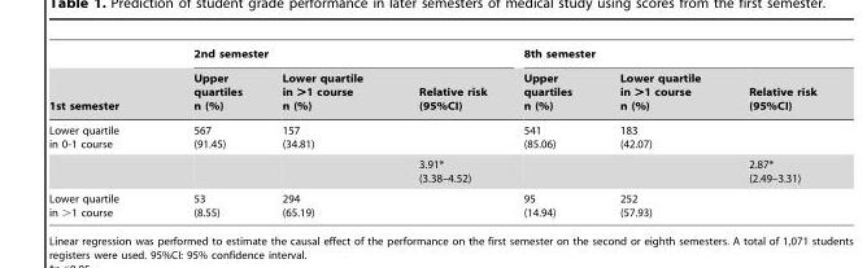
<table><thead><tr><td rowspan="2">1st semester</td><td colspan="3">2nd semester</td><td colspan="3">8th semester</td></tr><tr><td>Upper quartiles n (%)</td><td>Lower quartile in &gt;1 course n (%)</td><td>Relative risk (95%CI)</td><td>Upper quartiles n (%)</td><td>Lower quartile in &gt;1 course n (%)</td><td>Relative risk (95%CI)</td></tr></thead><tbody><tr><td rowspan="2">Lower quartile in 0-1 course</td><td>567 (91.45)</td><td>157 (34.81)</td><td></td><td>541 (85.06)</td><td>183 (42.07)</td><td></td></tr><tr><td></td><td></td><td>3.91* (3.38–4.52)</td><td></td><td></td><td>2.87* (2.49–3.31)</td></tr><tr><td>Lower quartile in &gt;1 course</td><td>53 (8.55)</td><td>294 (65.19)</td><td></td><td>95 (14.94)</td><td>252 (57.93)</td><td></td></tr></tbody></table>